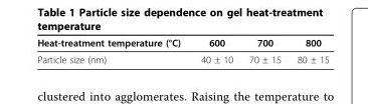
<table><thead><tr><td>Heat-treatment temperature (°C)</td><td>600</td><td>700</td><td>800</td></tr></thead><tbody><tr><td>Particle size (nm)</td><td>40 ± 10</td><td>70 ± 15</td><td>80 ± 15</td></tr></tbody></table>